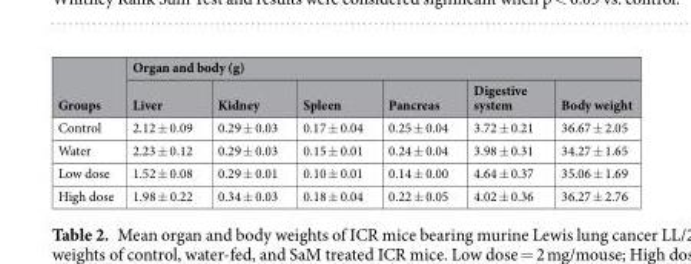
<table><thead><tr><td rowspan="2">Groups</td><td colspan="6">Organ and body (g)</td></tr><tr><td>Liver</td><td>Kidney</td><td>Spleen</td><td>Pancreas</td><td>Digestive system</td><td>Body weight</td></tr></thead><tbody><tr><td>Control</td><td>2.12 ± 0.09</td><td>0.29 ± 0.03</td><td>0.17 ± 0.04</td><td>0.25 ± 0.04</td><td>3.72 ± 0.21</td><td>36.67 ± 2.05</td></tr><tr><td>Water</td><td>2.23 ± 0.12</td><td>0.29 ± 0.03</td><td>0.15 ± 0.01</td><td>0.24 ± 0.04</td><td>3.98 ± 0.31</td><td>34.27 ± 1.65</td></tr><tr><td>Low dose</td><td>1.52 ± 0.08</td><td>0.29 ± 0.01</td><td>0.10 ± 0.01</td><td>0.14 ± 0.00</td><td>4.64 ± 0.37</td><td>35.06 ± 1.69</td></tr><tr><td>High dose</td><td>1.98 ± 0.22</td><td>0.34 ± 0.03</td><td>0.18 ± 0.04</td><td>0.22 ± 0.05</td><td>4.02 ± 0.36</td><td>36.27 ± 2.76</td></tr></tbody></table>